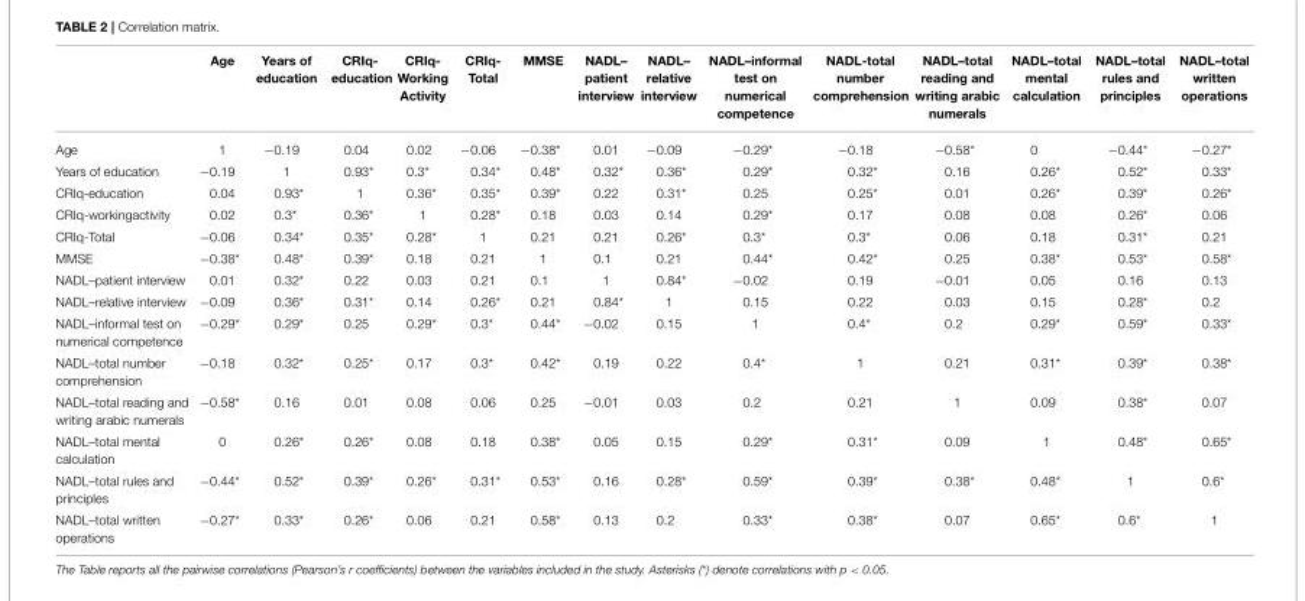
<table><thead><tr><td></td><td>Age</td><td>Years of education</td><td>CRIq- education</td><td>CRIq- Working Activity</td><td>CRIq- Total</td><td>MMSE</td><td>NADL– patient interview</td><td>NADL– relative interview</td><td>NADL–informal test on numerical competence</td><td>NADL-total number comprehension</td><td>NADL–total reading and writing arabic numerals</td><td>NADL–total mental calculation</td><td>NADL–total rules and principles</td><td>NADL–total written operations</td></tr></thead><tbody><tr><td>Age</td><td>1</td><td>−0.19</td><td>0.04</td><td>0.02</td><td>−0.06</td><td>−0.38*</td><td>0.01</td><td>−0.09</td><td>−0.29*</td><td>−0.18</td><td>−0.58*</td><td>0</td><td>−0.44*</td><td>−0.27*</td></tr><tr><td>Years of education</td><td>−0.19</td><td>1</td><td>0.93*</td><td>0.3*</td><td>0.34*</td><td>0.48*</td><td>0.32*</td><td>0.36*</td><td>0.29*</td><td>0.32*</td><td>0.16</td><td>0.26*</td><td>0.52*</td><td>0.33*</td></tr><tr><td>CRIq-education</td><td>0.04</td><td>0.93*</td><td>1</td><td>0.36*</td><td>0.35*</td><td>0.39*</td><td>0.22</td><td>0.31*</td><td>0.25</td><td>0.25*</td><td>0.01</td><td>0.26*</td><td>0.39*</td><td>0.26*</td></tr><tr><td>CRIq-workingactivity</td><td>0.02</td><td>0.3*</td><td>0.36*</td><td>1</td><td>0.28*</td><td>0.18</td><td>0.03</td><td>0.14</td><td>0.29*</td><td>0.17</td><td>0.08</td><td>0.08</td><td>0.26*</td><td>0.06</td></tr><tr><td>CRIq-Total</td><td>−0.06</td><td>0.34*</td><td>0.35*</td><td>0.28*</td><td>1</td><td>0.21</td><td>0.21</td><td>0.26*</td><td>0.3*</td><td>0.3*</td><td>0.06</td><td>0.18</td><td>0.31*</td><td>0.21</td></tr><tr><td>MMSE</td><td>−0.38*</td><td>0.48*</td><td>0.39*</td><td>0.18</td><td>0.21</td><td>1</td><td>0.1</td><td>0.21</td><td>0.44*</td><td>0.42*</td><td>0.25</td><td>0.38*</td><td>0.53*</td><td>0.58*</td></tr><tr><td>NADL–patient interview</td><td>0.01</td><td>0.32*</td><td>0.22</td><td>0.03</td><td>0.21</td><td>0.1</td><td>1</td><td>0.84*</td><td>−0.02</td><td>0.19</td><td>−0.01</td><td>0.05</td><td>0.16</td><td>0.13</td></tr><tr><td>NADL–relative interview</td><td>−0.09</td><td>0.36*</td><td>0.31*</td><td>0.14</td><td>0.26*</td><td>0.21</td><td>0.84*</td><td>1</td><td>0.15</td><td>0.22</td><td>0.03</td><td>0.15</td><td>0.28*</td><td>0.2</td></tr><tr><td>NADL–informal test on numerical competence</td><td>−0.29*</td><td>0.29*</td><td>0.25</td><td>0.29*</td><td>0.3*</td><td>0.44*</td><td>−0.02</td><td>0.15</td><td>1</td><td>0.4*</td><td>0.2</td><td>0.29*</td><td>0.59*</td><td>0.33*</td></tr><tr><td>NADL–total number comprehension</td><td>−0.18</td><td>0.32*</td><td>0.25*</td><td>0.17</td><td>0.3*</td><td>0.42*</td><td>0.19</td><td>0.22</td><td>0.4*</td><td>1</td><td>0.21</td><td>0.31*</td><td>0.39*</td><td>0.38*</td></tr><tr><td>NADL–total reading and writing arabic numerals</td><td>−0.58*</td><td>0.16</td><td>0.01</td><td>0.08</td><td>0.06</td><td>0.25</td><td>−0.01</td><td>0.03</td><td>0.2</td><td>0.21</td><td>1</td><td>0.09</td><td>0.38*</td><td>0.07</td></tr><tr><td>NADL–total mental calculation</td><td>0</td><td>0.26*</td><td>0.26*</td><td>0.08</td><td>0.18</td><td>0.38*</td><td>0.05</td><td>0.15</td><td>0.29*</td><td>0.31*</td><td>0.09</td><td>1</td><td>0.48*</td><td>0.65*</td></tr><tr><td>NADL–total rules and principles</td><td>−0.44*</td><td>0.52*</td><td>0.39*</td><td>0.26*</td><td>0.31*</td><td>0.53*</td><td>0.16</td><td>0.28*</td><td>0.59*</td><td>0.39*</td><td>0.38*</td><td>0.48*</td><td>1</td><td>0.6*</td></tr><tr><td>NADL–total written operations</td><td>−0.27*</td><td>0.33*</td><td>0.26*</td><td>0.06</td><td>0.21</td><td>0.58*</td><td>0.13</td><td>0.2</td><td>0.33*</td><td>0.38*</td><td>0.07</td><td>0.65*</td><td>0.6*</td><td>1</td></tr></tbody></table>